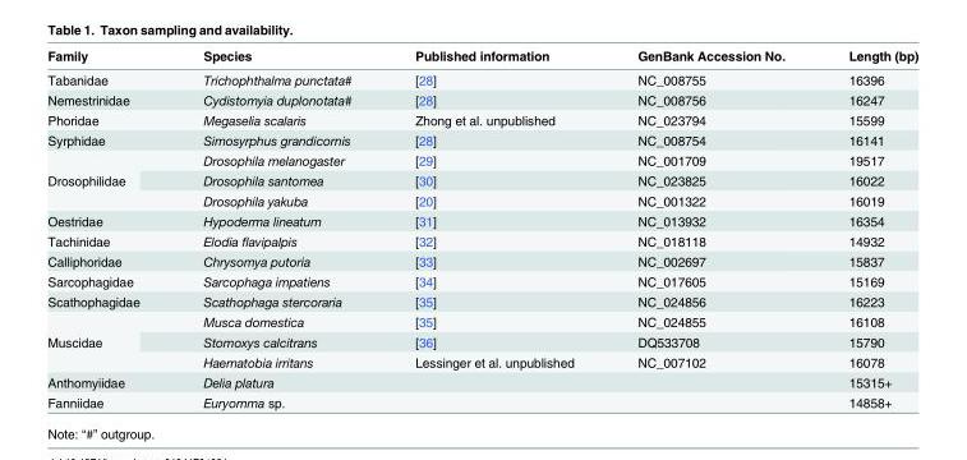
<table><thead><tr><td>Family</td><td>Species</td><td>Published information</td><td>GenBank Accession No.</td><td>Length (bp)</td></tr></thead><tbody><tr><td>Tabanidae</td><td>Trichophthalma punctata#</td><td>[28]</td><td>NC_008755</td><td>16396</td></tr><tr><td>Nemestrinidae</td><td>Cydistomyia duplonotata#</td><td>[28]</td><td>NC_008756</td><td>16247</td></tr><tr><td>Phoridae</td><td>Megaselia scalaris</td><td>Zhong et al. unpublished</td><td>NC_023794</td><td>15599</td></tr><tr><td>Syrphidae</td><td>Simosyrphus grandicornis</td><td>[28]</td><td>NC_008754</td><td>16141</td></tr><tr><td rowspan="3">Drosophilidae</td><td>Drosophila melanogaster</td><td>[29]</td><td>NC_001709</td><td>19517</td></tr><tr><td>Drosophila santomea</td><td>[30]</td><td>NC_023825</td><td>16022</td></tr><tr><td>Drosophila yakuba</td><td>[20]</td><td>NC_001322</td><td>16019</td></tr><tr><td>Oestridae</td><td>Hypoderma lineatum</td><td>[31]</td><td>NC_013932</td><td>16354</td></tr><tr><td>Tachinidae</td><td>Elodia flavipalpis</td><td>[32]</td><td>NC_018118</td><td>14932</td></tr><tr><td>Calliphoridae</td><td>Chrysomya putoria</td><td>[33]</td><td>NC_002697</td><td>15837</td></tr><tr><td>Sarcophagidae</td><td>Sarcophaga impatiens</td><td>[34]</td><td>NC_017605</td><td>15169</td></tr><tr><td>Scathophagidae</td><td>Scathophaga stercoraria</td><td>[35]</td><td>NC_024856</td><td>16223</td></tr><tr><td rowspan="3">Muscidae</td><td>Musca domestica</td><td>[35]</td><td>NC_024855</td><td>16108</td></tr><tr><td>Stomoxys calcitrans</td><td>[36]</td><td>DQ533708</td><td>15790</td></tr><tr><td>Haematobia irritans</td><td>Lessinger et al. unpublished</td><td>NC_007102</td><td>16078</td></tr><tr><td>Anthomyiidae</td><td>Delia platura</td><td></td><td></td><td>15315+</td></tr><tr><td>Fanniidae</td><td>Euryomma sp.</td><td></td><td></td><td>14858+</td></tr></tbody></table>